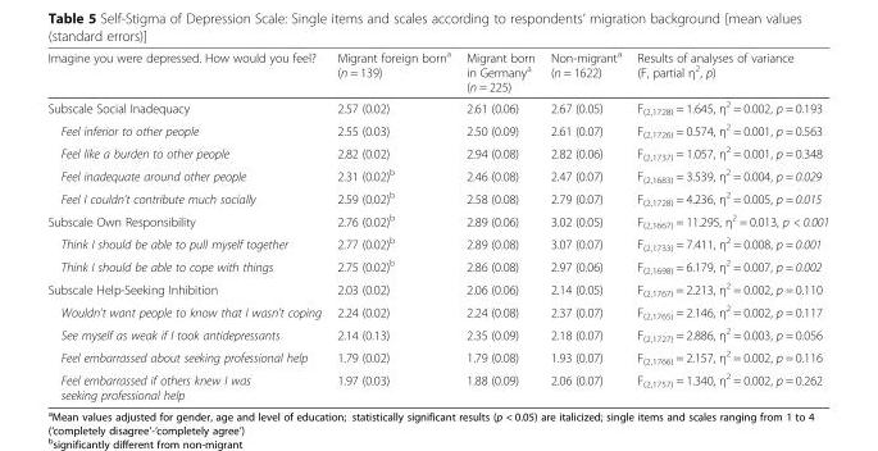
<table><thead><tr><td>Imagine you were depressed. How would you feel?</td><td>Migrant foreign born<sup>a</sup> (n = 139)</td><td>Migrant born in Germany<sup>a</sup> (n = 225)</td><td>Non-migrant<sup>a</sup> (n = 1622)</td><td>Results of analyses of variance (F, partial η<sup>2</sup>, p)</td></tr></thead><tbody><tr><td>Subscale Social Inadequacy</td><td>2.57 (0.02)</td><td>2.61 (0.06)</td><td>2.67 (0.05)</td><td>F<sub>(2,1728)</sub> = 1.645, η<sup>2</sup> = 0.002, p = 0.193</td></tr><tr><td>Feel inferior to other people</td><td>2.55 (0.03)</td><td>2.50 (0.09)</td><td>2.61 (0.07)</td><td>F<sub>(2,1726)</sub> = 0.574, η<sup>2</sup> = 0.001, p = 0.563</td></tr><tr><td>Feel like a burden to other people</td><td>2.82 (0.02)</td><td>2.94 (0.08)</td><td>2.82 (0.06)</td><td>F<sub>(2,1737)</sub> = 1.057, η<sup>2</sup> = 0.001, p = 0.348</td></tr><tr><td>Feel inadequate around other people</td><td>2.31 (0.02)<sup>b</sup></td><td>2.46 (0.08)</td><td>2.47 (0.07)</td><td>F<sub>(2,1683)</sub> = 3.539, η<sup>2</sup> = 0.004, p = 0.029</td></tr><tr><td>Feel I couldn’t contribute much socially</td><td>2.59 (0.02)<sup>b</sup></td><td>2.58 (0.08)</td><td>2.79 (0.07)</td><td>F<sub>(2,1728)</sub> = 4.236, η<sup>2</sup> = 0.005, p = 0.015</td></tr><tr><td>Subscale Own Responsibility</td><td>2.76 (0.02)<sup>b</sup></td><td>2.89 (0.06)</td><td>3.02 (0.05)</td><td>F<sub>(2,1667)</sub> = 11.295, η<sup>2</sup> = 0.013, p &lt; 0.001</td></tr><tr><td>Think I should be able to pull myself together</td><td>2.77 (0.02)<sup>b</sup></td><td>2.89 (0.08)</td><td>3.07 (0.07)</td><td>F<sub>(2,1733)</sub> = 7.411, η<sup>2</sup> = 0.008, p = 0.001</td></tr><tr><td>Think I should be able to cope with things</td><td>2.75 (0.02)<sup>b</sup></td><td>2.86 (0.08)</td><td>2.97 (0.06)</td><td>F<sub>(2,1698)</sub> = 6.179, η<sup>2</sup> = 0.007, p = 0.002</td></tr><tr><td>Subscale Help-Seeking Inhibition</td><td>2.03 (0.02)</td><td>2.06 (0.06)</td><td>2.14 (0.05)</td><td>F<sub>(2,1767)</sub> = 2.213, η<sup>2</sup> = 0.002, p = 0.110</td></tr><tr><td>Wouldn’t want people to know that I wasn’t coping</td><td>2.24 (0.02)</td><td>2.24 (0.08)</td><td>2.37 (0.07)</td><td>F<sub>(2,1765)</sub> = 2.146, η<sup>2</sup> = 0.002, p = 0.117</td></tr><tr><td>See myself as weak if I took antidepressants</td><td>2.14 (0.13)</td><td>2.35 (0.09)</td><td>2.18 (0.07)</td><td>F<sub>(2,1727)</sub> = 2.886, η<sup>2</sup> = 0.003, p = 0.056</td></tr><tr><td>Feel embarrassed about seeking professional help</td><td>1.79 (0.02)</td><td>1.79 (0.08)</td><td>1.93 (0.07)</td><td>F<sub>(2,1766)</sub> = 2.157, η<sup>2</sup> = 0.002, p = 0.116</td></tr><tr><td>Feel embarrassed if others knew I was seeking professional help</td><td>1.97 (0.03)</td><td>1.88 (0.09)</td><td>2.06 (0.07)</td><td>F<sub>(2,1757)</sub> = 1.340, η<sup>2</sup> = 0.002, p = 0.262</td></tr></tbody></table>